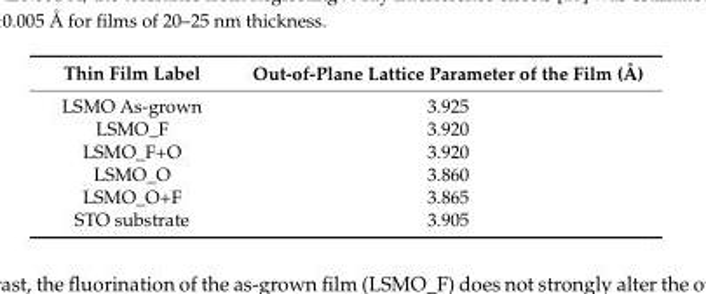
<table><thead><tr><td>Thin Film Label</td><td>Out-of-Plane Lattice Parameter of the Film (Å)</td></tr></thead><tbody><tr><td>LSMO As-grown</td><td>3.925</td></tr><tr><td>LSMO_F</td><td>3.920</td></tr><tr><td>LSMO_F+O</td><td>3.920</td></tr><tr><td>LSMO_O</td><td>3.860</td></tr><tr><td>LSMO_O+F</td><td>3.865</td></tr><tr><td>STO substrate</td><td>3.905</td></tr></tbody></table>